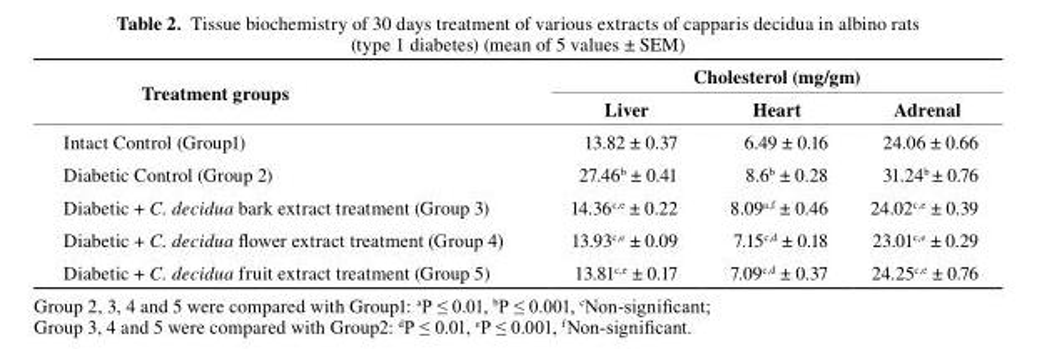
<table><thead><tr><td rowspan="2">treatment groups</td><td colspan="3">cholesterol (mg/gm)</td></tr><tr><td>Liver</td><td>Heart</td><td>Adrenal</td></tr></thead><tbody><tr><td>Intact Control (Group1)</td><td>13.82 ± 0.37</td><td>6.49 ± 0.16</td><td>24.06 ± 0.66</td></tr><tr><td>Diabetic Control (Group 2)</td><td>27.46<sup>b</sup> ± 0.41</td><td>8.6<sup>b</sup> ± 0.28</td><td>31.24<sup>b</sup> ± 0.76</td></tr><tr><td>Diabetic + C. decidua bark extract treatment (Group 3)</td><td>14.36<sup>c</sup>,<sup>e</sup> ± 0.22</td><td>8.09<sup>a</sup>,<sup>f</sup> ± 0.46</td><td>24.02<sup>c</sup>,<sup>e</sup> ± 0.39</td></tr><tr><td>Diabetic + C. decidua flower extract treatment (Group 4)</td><td>13.93<sup>c</sup>,<sup>e</sup> ± 0.09</td><td>7.15<sup>c</sup>,<sup>d</sup> ± 0.18</td><td>23.01<sup>c</sup>,<sup>e</sup> ± 0.29</td></tr><tr><td>Diabetic + C. decidua fruit extract treatment (Group 5)</td><td>13.81<sup>c</sup>,<sup>e</sup> ± 0.17</td><td>7.09<sup>c</sup>,<sup>d</sup> ± 0.37</td><td>24.25<sup>c</sup>,<sup>e</sup> ± 0.76</td></tr></tbody></table>